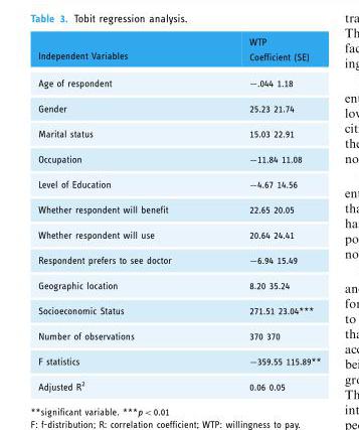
<table><thead><tr><td rowspan="2">Independent Variables</td><td rowspan="2">WTP Coefficient (SE)</td></tr><tr></tr></thead><tbody><tr><td>Age of respondent</td><td>−.044 1.18</td></tr><tr><td>Gender</td><td>25.23 21.74</td></tr><tr><td>Marital status</td><td>15.03 22.91</td></tr><tr><td>Occupation</td><td>−11.84 11.08</td></tr><tr><td>Level of Education</td><td>−4.67 14.56</td></tr><tr><td>Whether respondent will benefit</td><td>22.65 20.05</td></tr><tr><td>Whether respondent will use</td><td>20.64 24.41</td></tr><tr><td>Respondent prefers to see doctor</td><td>−6.94 15.49</td></tr><tr><td>Geographic location</td><td>8.20 35.24</td></tr><tr><td>Socioeconomic Status</td><td>271.51 23.04***</td></tr><tr><td>Number of observations</td><td>370 370</td></tr><tr><td>F statistics</td><td>−359.55 115.89**</td></tr><tr><td>Adjusted R<sup>2</sup></td><td>0.06 0.05</td></tr></tbody></table>